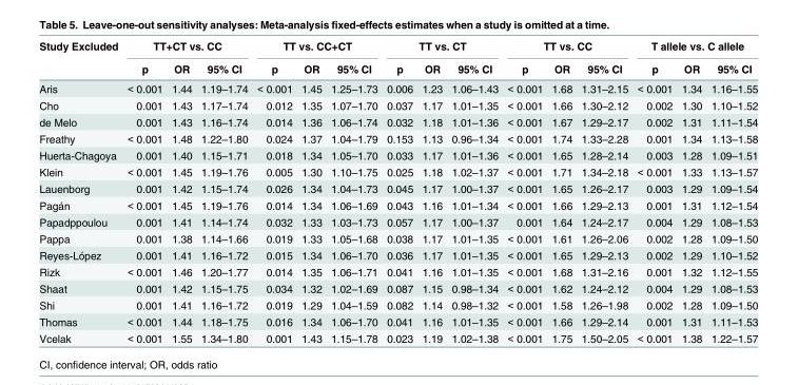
<table><thead><tr><td rowspan="2">Study Excluded</td><td colspan="3">TT+CT vs. CC</td><td colspan="3">TT vs. CC+CT</td><td colspan="3">TT vs. CT</td><td colspan="3">TT vs. CC</td><td colspan="3">T allele vs. C allele</td></tr><tr><td>p</td><td>OR</td><td>95% CI</td><td>p</td><td>OR</td><td>95% CI</td><td>p</td><td>OR</td><td>95% CI</td><td>p</td><td>OR</td><td>95% CI</td><td>p</td><td>OR</td><td>95% CI</td></tr></thead><tbody><tr><td>Aris</td><td>&lt; 0.001</td><td>1.44</td><td>1.19–1.74</td><td>&lt; 0.001</td><td>1.45</td><td>1.25–1.73</td><td>0.006</td><td>1.23</td><td>1.06–1.43</td><td>&lt; 0.001</td><td>1.68</td><td>1.31–2.15</td><td>&lt; 0.001</td><td>1.34</td><td>1.16–1.55</td></tr><tr><td>Cho</td><td>0.001</td><td>1.43</td><td>1.17–1.74</td><td>0.012</td><td>1.35</td><td>1.07–1.70</td><td>0.037</td><td>1.17</td><td>1.01–1.35</td><td>&lt; 0.001</td><td>1.66</td><td>1.30–2.12</td><td>0.002</td><td>1.30</td><td>1.10–1.52</td></tr><tr><td>de Melo</td><td>0.001</td><td>1.43</td><td>1.16–1.74</td><td>0.014</td><td>1.36</td><td>1.06–1.74</td><td>0.032</td><td>1.18</td><td>1.01–1.36</td><td>&lt; 0.001</td><td>1.67</td><td>1.29–2.17</td><td>0.002</td><td>1.31</td><td>1.11–1.54</td></tr><tr><td>Freathy</td><td>&lt; 0.001</td><td>1.48</td><td>1.22–1.80</td><td>0.024</td><td>1.37</td><td>1.04–1.79</td><td>0.153</td><td>1.13</td><td>0.96–1.34</td><td>&lt; 0.001</td><td>1.74</td><td>1.33–2.28</td><td>0.001</td><td>1.34</td><td>1.13–1.58</td></tr><tr><td>Huerta-Chagoya</td><td>0.001</td><td>1.40</td><td>1.15–1.71</td><td>0.018</td><td>1.34</td><td>1.05–1.70</td><td>0.033</td><td>1.17</td><td>1.01–1.36</td><td>&lt; 0.001</td><td>1.65</td><td>1.28–2.14</td><td>0.003</td><td>1.28</td><td>1.09–1.51</td></tr><tr><td>Klein</td><td>&lt; 0.001</td><td>1.45</td><td>1.19–1.76</td><td>0.005</td><td>1.30</td><td>1.10–1.75</td><td>0.025</td><td>1.18</td><td>1.02–1.37</td><td>&lt; 0.001</td><td>1.71</td><td>1.34–2.18</td><td>&lt; 0.001</td><td>1.33</td><td>1.13–1.57</td></tr><tr><td>Lauenborg</td><td>0.001</td><td>1.42</td><td>1.15–1.74</td><td>0.026</td><td>1.34</td><td>1.04–1.73</td><td>0.045</td><td>1.17</td><td>1.00–1.37</td><td>&lt; 0.001</td><td>1.65</td><td>1.26–2.17</td><td>0.003</td><td>1.29</td><td>1.09–1.54</td></tr><tr><td>Pagán</td><td>&lt; 0.001</td><td>1.45</td><td>1.19–1.76</td><td>0.014</td><td>1.34</td><td>1.06–1.69</td><td>0.043</td><td>1.16</td><td>1.01–1.34</td><td>&lt; 0.001</td><td>1.66</td><td>1.29–2.13</td><td>0.001</td><td>1.31</td><td>1.12–1.54</td></tr><tr><td>Papadppoulou</td><td>0.001</td><td>1.41</td><td>1.14–1.74</td><td>0.032</td><td>1.33</td><td>1.03–1.73</td><td>0.057</td><td>1.17</td><td>1.00–1.37</td><td>0.001</td><td>1.64</td><td>1.24–2.17</td><td>0.004</td><td>1.29</td><td>1.08–1.53</td></tr><tr><td>Pappa</td><td>0.001</td><td>1.38</td><td>1.14–1.66</td><td>0.019</td><td>1.33</td><td>1.05–1.68</td><td>0.038</td><td>1.17</td><td>1.01–1.35</td><td>&lt; 0.001</td><td>1.61</td><td>1.26–2.06</td><td>0.002</td><td>1.28</td><td>1.09–1.50</td></tr><tr><td>Reyes-López</td><td>0.001</td><td>1.41</td><td>1.16–1.72</td><td>0.015</td><td>1.34</td><td>1.06–1.70</td><td>0.036</td><td>1.17</td><td>1.01–1.35</td><td>&lt; 0.001</td><td>1.65</td><td>1.29–2.13</td><td>0.002</td><td>1.29</td><td>1.10–1.52</td></tr><tr><td>Rizk</td><td>&lt; 0.001</td><td>1.46</td><td>1.20–1.77</td><td>0.014</td><td>1.35</td><td>1.06–1.71</td><td>0.041</td><td>1.16</td><td>1.01–1.35</td><td>&lt; 0.001</td><td>1.68</td><td>1.31–2.16</td><td>0.001</td><td>1.32</td><td>1.12–1.55</td></tr><tr><td>Shaat</td><td>0.001</td><td>1.42</td><td>1.15–1.75</td><td>0.034</td><td>1.32</td><td>1.02–1.69</td><td>0.087</td><td>1.15</td><td>0.98–1.34</td><td>&lt; 0.001</td><td>1.62</td><td>1.24–2.12</td><td>0.004</td><td>1.29</td><td>1.08–1.53</td></tr><tr><td>Shi</td><td>0.001</td><td>1.41</td><td>1.16–1.72</td><td>0.019</td><td>1.29</td><td>1.04–1.59</td><td>0.082</td><td>1.14</td><td>0.98–1.32</td><td>&lt; 0.001</td><td>1.58</td><td>1.26–1.98</td><td>0.002</td><td>1.28</td><td>1.09–1.50</td></tr><tr><td>Thomas</td><td>&lt; 0.001</td><td>1.44</td><td>1.18–1.75</td><td>0.016</td><td>1.34</td><td>1.06–1.70</td><td>0.041</td><td>1.16</td><td>1.01–1.35</td><td>&lt; 0.001</td><td>1.66</td><td>1.29–2.14</td><td>0.001</td><td>1.31</td><td>1.11–1.53</td></tr><tr><td>Vcelak</td><td>&lt; 0.001</td><td>1.55</td><td>1.34–1.80</td><td>0.001</td><td>1.43</td><td>1.15–1.78</td><td>0.023</td><td>1.19</td><td>1.02–1.38</td><td>&lt; 0.001</td><td>1.75</td><td>1.50–2.05</td><td>&lt; 0.001</td><td>1.38</td><td>1.22–1.57</td></tr></tbody></table>